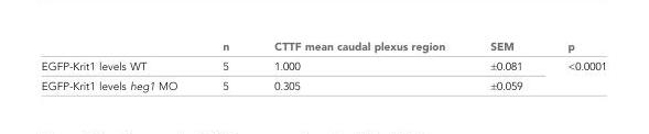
<table><thead><tr><td></td><td>n</td><td>CTTF mean caudal plexus region</td><td>SEM</td><td>p</td></tr></thead><tbody><tr><td>EGFP-Krit1 levels WT</td><td>5</td><td>1.000</td><td>±0.081</td><td rowspan="2">&lt;0.0001</td></tr><tr><td>EGFP-Krit1 levels heg1 MO</td><td>5</td><td>0.305</td><td>±0.059</td></tr></tbody></table>